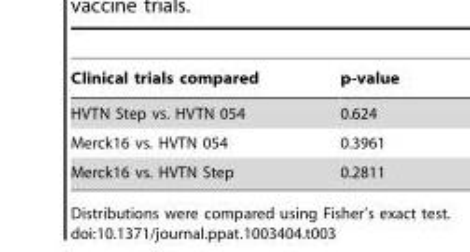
<table><thead><tr><td>Clinical trials compared</td><td>p-value</td></tr></thead><tbody><tr><td>HVTN Step vs. HVTN 054</td><td>0.624</td></tr><tr><td>Merck16 vs. HVTN 054</td><td>0.3961</td></tr><tr><td>Merck16 vs. HVTN Step</td><td>0.2811</td></tr></tbody></table>